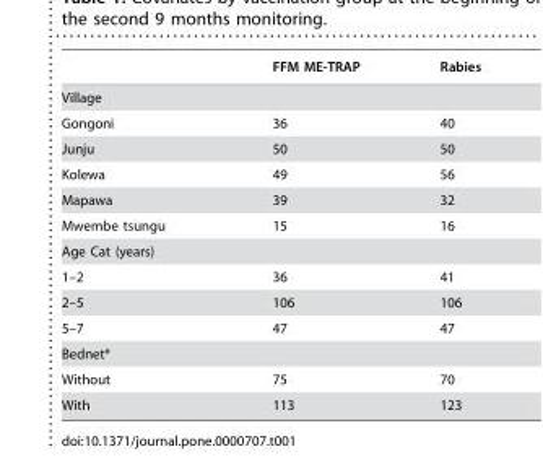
<table><thead><tr><td></td><td>FFM ME-TRAP</td><td>Rabies</td></tr></thead><tbody><tr><td colspan="3">Village</td></tr><tr><td>Gongoni</td><td>36</td><td>40</td></tr><tr><td>Junju</td><td>50</td><td>50</td></tr><tr><td>Kolewa</td><td>49</td><td>56</td></tr><tr><td>Mapawa</td><td>39</td><td>32</td></tr><tr><td>Mwembe tsungu</td><td>15</td><td>16</td></tr><tr><td colspan="3">Age Cat (years)</td></tr><tr><td>1–2</td><td>36</td><td>41</td></tr><tr><td>2–5</td><td>106</td><td>106</td></tr><tr><td>5–7</td><td>47</td><td>47</td></tr><tr><td colspan="3">Bednet*</td></tr><tr><td>Without</td><td>75</td><td>70</td></tr><tr><td>With</td><td>113</td><td>123</td></tr></tbody></table>